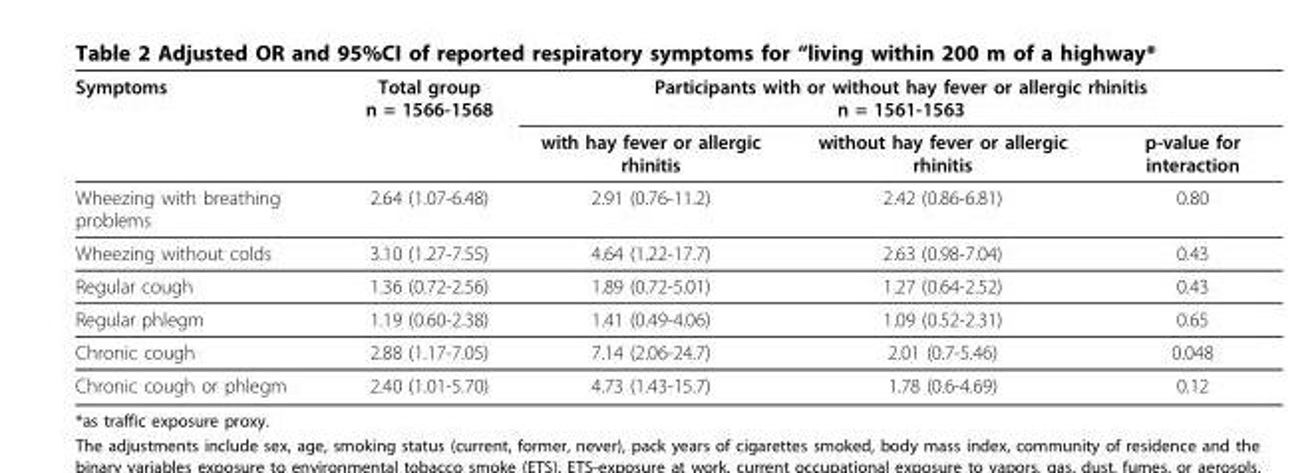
<table><thead><tr><td rowspan="2">Symptoms</td><td rowspan="2">Total group n = 1566-1568</td><td colspan="3">Participants with or without hay fever or allergic rhinitis n = 1561-1563</td></tr><tr><td>with hay fever or allergic rhinitis</td><td>without hay fever or allergic rhinitis</td><td>p-value for interaction</td></tr></thead><tbody><tr><td>Wheezing with breathing problems</td><td>2.64 (1.07-6.48)</td><td>2.91 (0.76-11.2)</td><td>2.42 (0.86-6.81)</td><td>0.80</td></tr><tr><td>Wheezing without colds</td><td>3.10 (1.27-7.55)</td><td>4.64 (1.22-17.7)</td><td>2.63 (0.98-7.04)</td><td>0.43</td></tr><tr><td>Regular cough</td><td>1.36 (0.72-2.56)</td><td>1.89 (0.72-5.01)</td><td>1.27 (0.64-2.52)</td><td>0.43</td></tr><tr><td>Regular phlegm</td><td>1.19 (0.60-2.38)</td><td>1.41 (0.49-4.06)</td><td>1.09 (0.52-2.31)</td><td>0.65</td></tr><tr><td>Chronic cough</td><td>2.88 (1.17-7.05)</td><td>7.14 (2.06-24.7)</td><td>2.01 (0.7-5.46)</td><td>0.048</td></tr><tr><td>Chronic cough or phlegm</td><td>2.40 (1.01-5.70)</td><td>4.73 (1.43-15.7)</td><td>1.78 (0.6-4.69)</td><td>0.12</td></tr></tbody></table>